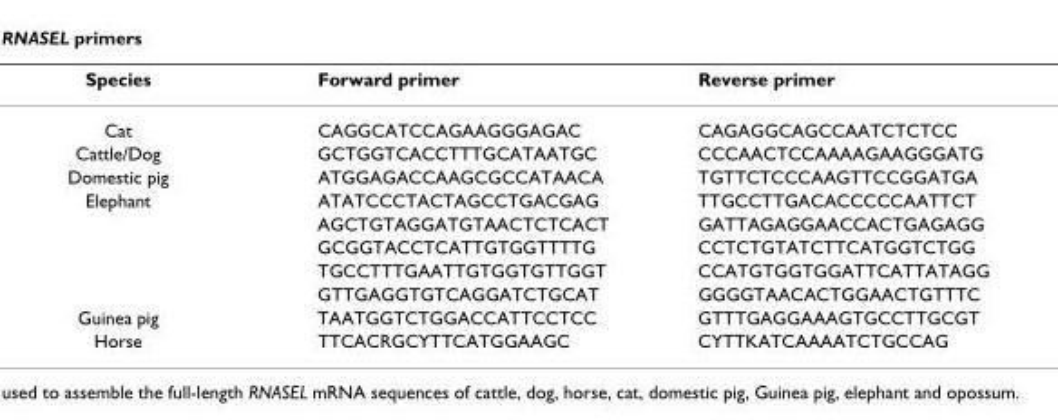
<table><thead><tr><td>Species</td><td>Forward primer</td><td>Reverse primer</td></tr></thead><tbody><tr><td>Cat</td><td>CAGGCATCCAGAAGGGAGAC</td><td>CAGAGGCAGCCAATCTCTCC</td></tr><tr><td>Cattle/Dog</td><td>GCTGGTCACCTTTGCATAATGC</td><td>CCCAACTCCAAAAGAAGGGATG</td></tr><tr><td>Domestic pig</td><td>ATGGAGACCAAGCGCCATAACA</td><td>TGTTCTCCCAAGTTCCGGATGA</td></tr><tr><td rowspan="5">Elephant</td><td>ATATCCCTACTAGCCTGACGAG</td><td>TTGCCTTGACACCCCCAATTCT</td></tr><tr><td>AGCTGTAGGATGTAACTCTCACT</td><td>GATTAGAGGAACCACTGAGAGG</td></tr><tr><td>GCGGTACCTCATTGTGGTTTTG</td><td>CCTCTGTATCTTCATGGTCTGG</td></tr><tr><td>TGCCTTTGAATTGTGGTGTTGGT</td><td>CCATGTGGTGGATTCATTATAGG</td></tr><tr><td>GTTGAGGTGTCAGGATCTGCAT</td><td>GGGGTAACACTGGAACTGTTTC</td></tr><tr><td>Guinea pig</td><td>TAATGGTCTGGACCATTCCTCC</td><td>GTTTGAGGAAAGTGCCTTGCGT</td></tr><tr><td>Horse</td><td>TTCACRGCYTTCATGGAAGC</td><td>CYTTKATCAAAATCTGCCAG</td></tr></tbody></table>